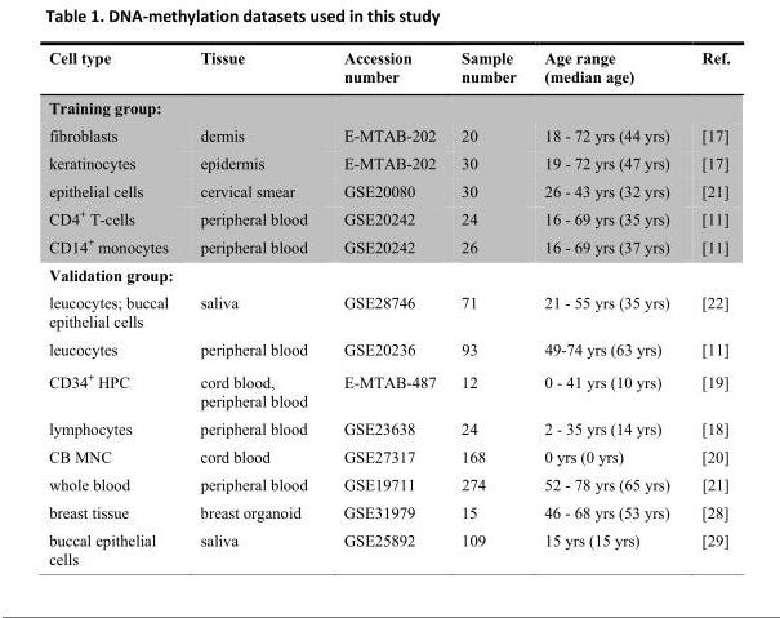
<table><thead><tr><td>Cell type</td><td>Tissue</td><td>Accession number</td><td>Sample number</td><td>Age range (median age)</td><td>Ref.</td></tr></thead><tbody><tr><td colspan="6">Training group:</td></tr><tr><td>fibroblasts</td><td>dermis</td><td>E-MTAB-202</td><td>20</td><td>18 - 72 yrs (44 yrs)</td><td>[17]</td></tr><tr><td>keratinocytes</td><td>epidermis</td><td>E-MTAB-202</td><td>30</td><td>19 - 72 yrs (47 yrs)</td><td>[17]</td></tr><tr><td>epithelial cells</td><td>cervical smear</td><td>GSE20080</td><td>30</td><td>26 - 43 yrs (32 yrs)</td><td>[21]</td></tr><tr><td>CD4<sup>+</sup> T-cells</td><td>peripheral blood</td><td>GSE20242</td><td>24</td><td>16 - 69 yrs (35 yrs)</td><td>[11]</td></tr><tr><td>CD14<sup>+</sup> monocytes</td><td>peripheral blood</td><td>GSE20242</td><td>26</td><td>16 - 69 yrs (37 yrs)</td><td>[11]</td></tr><tr><td colspan="6">Validation group:</td></tr><tr><td>leucocytes; buccal epithelial cells</td><td>saliva</td><td>GSE28746</td><td>71</td><td>21 - 55 yrs (35 yrs)</td><td>[22]</td></tr><tr><td>leucocytes</td><td>peripheral blood</td><td>GSE20236</td><td>93</td><td>49-74 yrs (63 yrs)</td><td>[11]</td></tr><tr><td>CD34<sup>+</sup> HPC</td><td>cord blood, peripheral blood</td><td>E-MTAB-487</td><td>12</td><td>0 - 41 yrs (10 yrs)</td><td>[19]</td></tr><tr><td>lymphocytes</td><td>peripheral blood</td><td>GSE23638</td><td>24</td><td>2 - 35 yrs (14 yrs)</td><td>[18]</td></tr><tr><td>CB MNC</td><td>cord blood</td><td>GSE27317</td><td>168</td><td>0 yrs (0 yrs)</td><td>[20]</td></tr><tr><td>whole blood</td><td>peripheral blood</td><td>GSE19711</td><td>274</td><td>52 - 78 yrs (65 yrs)</td><td>[21]</td></tr><tr><td>breast tissue</td><td>breast organoid</td><td>GSE31979</td><td>15</td><td>46 - 68 yrs (53 yrs)</td><td>[28]</td></tr><tr><td>buccal epithelial cells</td><td>saliva</td><td>GSE25892</td><td>109</td><td>15 yrs (15 yrs)</td><td>[29]</td></tr></tbody></table>